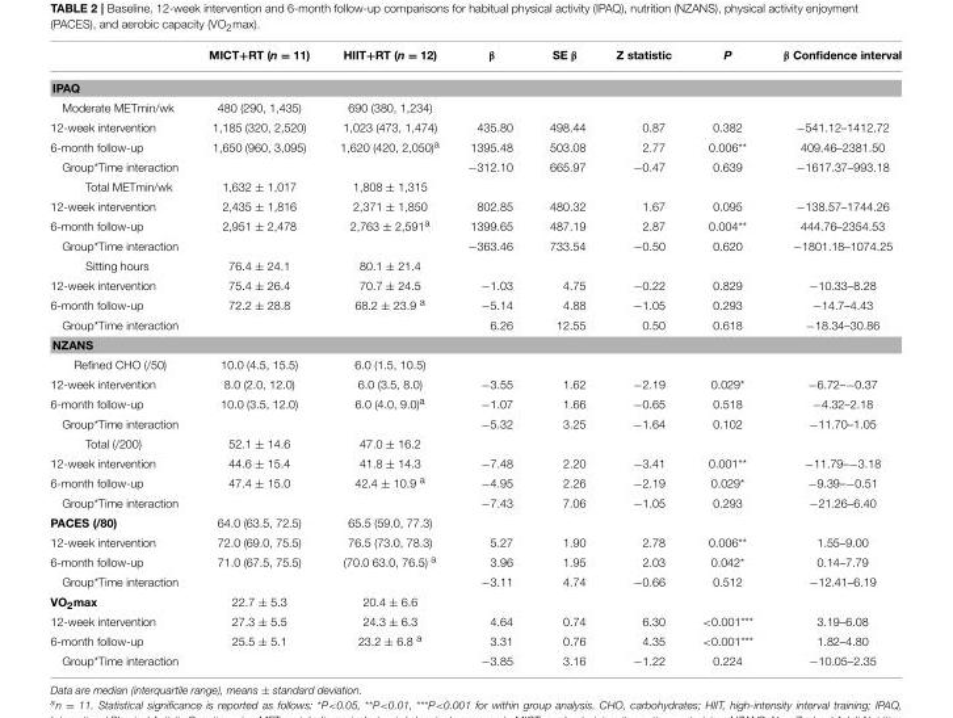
<table><thead><tr><td></td><td>MICT+RT (n = 11)</td><td>HIIT+RT (n = 12)</td><td>β</td><td>SE β</td><td>Z statistic</td><td>P</td><td>β Confidence interval</td></tr></thead><tbody><tr><td colspan="8">IPAQ</td></tr><tr><td>Moderate METmin/wk</td><td>480 (290, 1,435)</td><td>690 (380, 1,234)</td><td></td><td></td><td></td><td></td><td></td></tr><tr><td>12-week intervention</td><td>1,185 (320, 2,520)</td><td>1,023 (473, 1,474)</td><td>435.80</td><td>498.44</td><td>0.87</td><td>0.382</td><td>−541.12–1412.72</td></tr><tr><td>6-month follow-up</td><td>1,650 (960, 3,095)</td><td>1,620 (420, 2,050)<sup>a</sup></td><td>1395.48</td><td>503.08</td><td>2.77</td><td>0.006**</td><td>409.46–2381.50</td></tr><tr><td>Group*Time interaction</td><td></td><td></td><td>−312.10</td><td>665.97</td><td>−0.47</td><td>0.639</td><td>−1617.37–993.18</td></tr><tr><td>Total METmin/wk</td><td>1,632 ± 1,017</td><td>1,808 ± 1,315</td><td></td><td></td><td></td><td></td><td></td></tr><tr><td>12-week intervention</td><td>2,435 ± 1,816</td><td>2,371 ± 1,850</td><td>802.85</td><td>480.32</td><td>1.67</td><td>0.095</td><td>−138.57–1744.26</td></tr><tr><td>6-month follow-up</td><td>2,951 ± 2,478</td><td>2,763 ± 2,591<sup>a</sup></td><td>1399.65</td><td>487.19</td><td>2.87</td><td>0.004**</td><td>444.76–2354.53</td></tr><tr><td>Group*Time interaction</td><td></td><td></td><td>−363.46</td><td>733.54</td><td>−0.50</td><td>0.620</td><td>−1801.18–1074.25</td></tr><tr><td>Sitting hours</td><td>76.4 ± 24.1</td><td>80.1 ± 21.4</td><td></td><td></td><td></td><td></td><td></td></tr><tr><td>12-week intervention</td><td>75.4 ± 26.4</td><td>70.7 ± 24.5</td><td>−1.03</td><td>4.75</td><td>−0.22</td><td>0.829</td><td>−10.33–8.28</td></tr><tr><td>6-month follow-up</td><td>72.2 ± 28.8</td><td>68.2 ± 23.9 <sup>a</sup></td><td>−5.14</td><td>4.88</td><td>−1.05</td><td>0.293</td><td>−14.7–4.43</td></tr><tr><td>Group*Time interaction</td><td></td><td></td><td>6.26</td><td>12.55</td><td>0.50</td><td>0.618</td><td>−18.34–30.86</td></tr><tr><td colspan="8">NZANS</td></tr><tr><td>Refined CHO (/50)</td><td>10.0 (4.5, 15.5)</td><td>6.0 (1.5, 10.5)</td><td></td><td></td><td></td><td></td><td></td></tr><tr><td>12-week intervention</td><td>8.0 (2.0, 12.0)</td><td>6.0 (3.5, 8.0)</td><td>−3.55</td><td>1.62</td><td>−2.19</td><td>0.029*</td><td>−6.72–−0.37</td></tr><tr><td>6-month follow-up</td><td>10.0 (3.5, 12.0)</td><td>6.0 (4.0, 9.0)<sup>a</sup></td><td>−1.07</td><td>1.66</td><td>−0.65</td><td>0.518</td><td>−4.32–2.18</td></tr><tr><td>Group*Time interaction</td><td></td><td></td><td>−5.32</td><td>3.25</td><td>−1.64</td><td>0.102</td><td>−11.70–1.05</td></tr><tr><td>Total (/200)</td><td>52.1 ± 14.6</td><td>47.0 ± 16.2</td><td></td><td></td><td></td><td></td><td></td></tr><tr><td>12-week intervention</td><td>44.6 ± 15.4</td><td>41.8 ± 14.3</td><td>−7.48</td><td>2.20</td><td>−3.41</td><td>0.001**</td><td>−11.79–−3.18</td></tr><tr><td>6-month follow-up</td><td>47.4 ± 15.0</td><td>42.4 ± 10.9 <sup>a</sup></td><td>−4.95</td><td>2.26</td><td>−2.19</td><td>0.029*</td><td>−9.39–−0.51</td></tr><tr><td>Group*Time interaction</td><td></td><td></td><td>−7.43</td><td>7.06</td><td>−1.05</td><td>0.293</td><td>−21.26–6.40</td></tr><tr><td>PACES (/80)</td><td>64.0 (63.5, 72.5)</td><td>65.5 (59.0, 77.3)</td><td></td><td></td><td></td><td></td><td></td></tr><tr><td>12-week intervention</td><td>72.0 (69.0, 75.5)</td><td>76.5 (73.0, 78.3)</td><td>5.27</td><td>1.90</td><td>2.78</td><td>0.006**</td><td>1.55–9.00</td></tr><tr><td>6-month follow-up</td><td>71.0 (67.5, 75.5)</td><td>(70.0 63.0, 76.5) <sup>a</sup></td><td>3.96</td><td>1.95</td><td>2.03</td><td>0.042*</td><td>0.14–7.79</td></tr><tr><td>Group*Time interaction</td><td></td><td></td><td>−3.11</td><td>4.74</td><td>−0.66</td><td>0.512</td><td>−12.41–6.19</td></tr><tr><td>VO<sub>2</sub>max</td><td>22.7 ± 5.3</td><td>20.4 ± 6.6</td><td></td><td></td><td></td><td></td><td></td></tr><tr><td>12-week intervention</td><td>27.3 ± 5.5</td><td>24.3 ± 6.3</td><td>4.64</td><td>0.74</td><td>6.30</td><td>&lt;0.001***</td><td>3.19–6.08</td></tr><tr><td>6-month follow-up</td><td>25.5 ± 5.1</td><td>23.2 ± 6.8 <sup>a</sup></td><td>3.31</td><td>0.76</td><td>4.35</td><td>&lt;0.001***</td><td>1.82–4.80</td></tr><tr><td>Group*Time interaction</td><td></td><td></td><td>−3.85</td><td>3.16</td><td>−1.22</td><td>0.224</td><td>−10.05–2.35</td></tr></tbody></table>